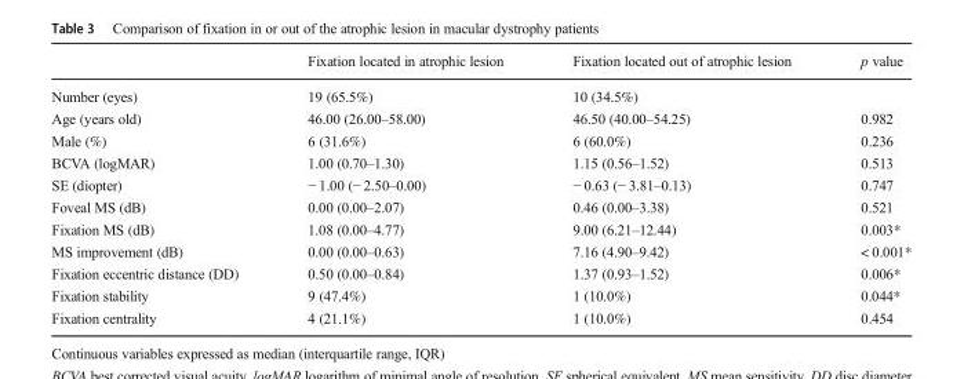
<table><thead><tr><td></td><td>Fixation located in atrophic lesion</td><td>Fixation located out of atrophic lesion</td><td>p value</td></tr></thead><tbody><tr><td>Number (eyes)</td><td>19 (65.5%)</td><td>10 (34.5%)</td><td></td></tr><tr><td>Age (years old)</td><td>46.00 (26.00–58.00)</td><td>46.50 (40.00–54.25)</td><td>0.982</td></tr><tr><td>Male (%)</td><td>6 (31.6%)</td><td>6 (60.0%)</td><td>0.236</td></tr><tr><td>BCVA (logMAR)</td><td>1.00 (0.70–1.30)</td><td>1.15 (0.56–1.52)</td><td>0.513</td></tr><tr><td>SE (diopter)</td><td>− 1.00 (− 2.50–0.00)</td><td>− 0.63 (− 3.81–0.13)</td><td>0.747</td></tr><tr><td>Foveal MS (dB)</td><td>0.00 (0.00–2.07)</td><td>0.46 (0.00–3.38)</td><td>0.521</td></tr><tr><td>Fixation MS (dB)</td><td>1.08 (0.00–4.77)</td><td>9.00 (6.21–12.44)</td><td>0.003*</td></tr><tr><td>MS improvement (dB)</td><td>0.00 (0.00–0.63)</td><td>7.16 (4.90–9.42)</td><td>&lt; 0.001*</td></tr><tr><td>Fixation eccentric distance (DD)</td><td>0.50 (0.00–0.84)</td><td>1.37 (0.93–1.52)</td><td>0.006*</td></tr><tr><td>Fixation stability</td><td>9 (47.4%)</td><td>1 (10.0%)</td><td>0.044*</td></tr><tr><td>Fixation centrality</td><td>4 (21.1%)</td><td>1 (10.0%)</td><td>0.454</td></tr></tbody></table>